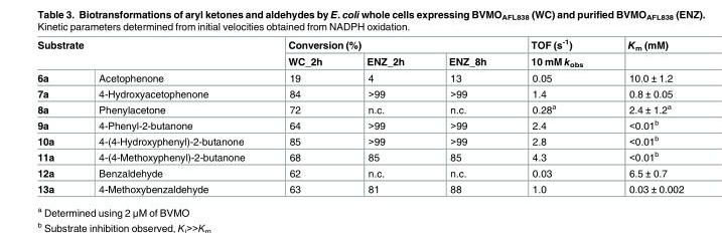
<table><thead><tr><td rowspan="2" colspan="2">Substrate</td><td colspan="3">Conversion (%)</td><td rowspan="3">TOF (s<sup>-1</sup>) 10 mM k<sub>obs</sub> 0.05</td><td rowspan="3">K<sub>m</sub> (mM) 10.0 ± 1.2</td></tr><tr><td rowspan="2">WC_2h 19</td><td rowspan="2">ENZ_2h 4</td><td rowspan="2">ENZ_8h 13</td></tr><tr><td>6a</td><td>Acetophenone</td></tr></thead><tbody><tr><td>7a</td><td>4-Hydroxyacetophenone</td><td>84</td><td>&gt;99</td><td>&gt;99</td><td>1.4</td><td>0.8 ± 0.05</td></tr><tr><td>8a</td><td>Phenylacetone</td><td>72</td><td>n.c.</td><td>n.c.</td><td>0.28<sup>a</sup></td><td>2.4 ± 1.2<sup>a</sup></td></tr><tr><td>9a</td><td>4-Phenyl-2-butanone</td><td>64</td><td>&gt;99</td><td>&gt;99</td><td>2.4</td><td>&lt;0.01<sup>b</sup></td></tr><tr><td>10a</td><td>4-(4-Hydroxyphenyl)-2-butanone</td><td>85</td><td>&gt;99</td><td>&gt;99</td><td>2.8</td><td>&lt;0.01<sup>b</sup></td></tr><tr><td>11a</td><td>4-(4-Methoxyphenyl)-2-butanone</td><td>68</td><td>85</td><td>85</td><td>4.3</td><td>&lt;0.01<sup>b</sup></td></tr><tr><td>12a</td><td>Benzaldehyde</td><td>62</td><td>n.c.</td><td>n.c.</td><td>0.03</td><td>6.5 ± 0.7</td></tr><tr><td>13a</td><td>4-Methoxybenzaldehyde</td><td>63</td><td>81</td><td>88</td><td>1.0</td><td>0.03 ± 0.002</td></tr></tbody></table>